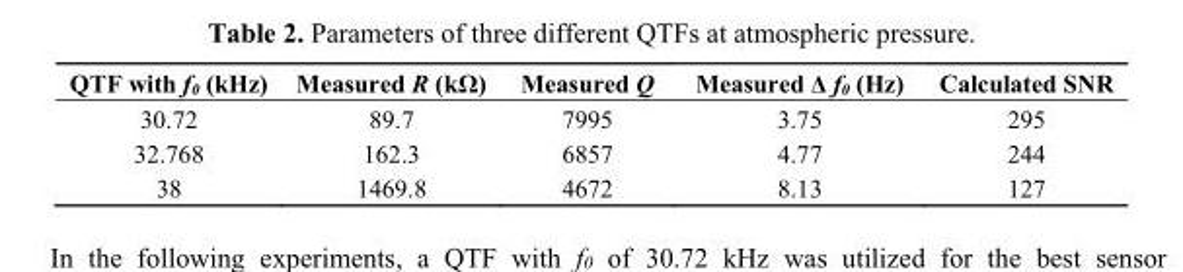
<table><thead><tr><td>QTF with f<sub>0</sub> (kHz)</td><td>Measured R (kΩ)</td><td>Measured Q</td><td>Measured Δ f<sub>0</sub> (Hz)</td><td>Calculated SNR</td></tr></thead><tbody><tr><td>30.72</td><td>89.7</td><td>7995</td><td>3.75</td><td>295</td></tr><tr><td>32.768</td><td>162.3</td><td>6857</td><td>4.77</td><td>244</td></tr><tr><td>38</td><td>1469.8</td><td>4672</td><td>8.13</td><td>127</td></tr></tbody></table>